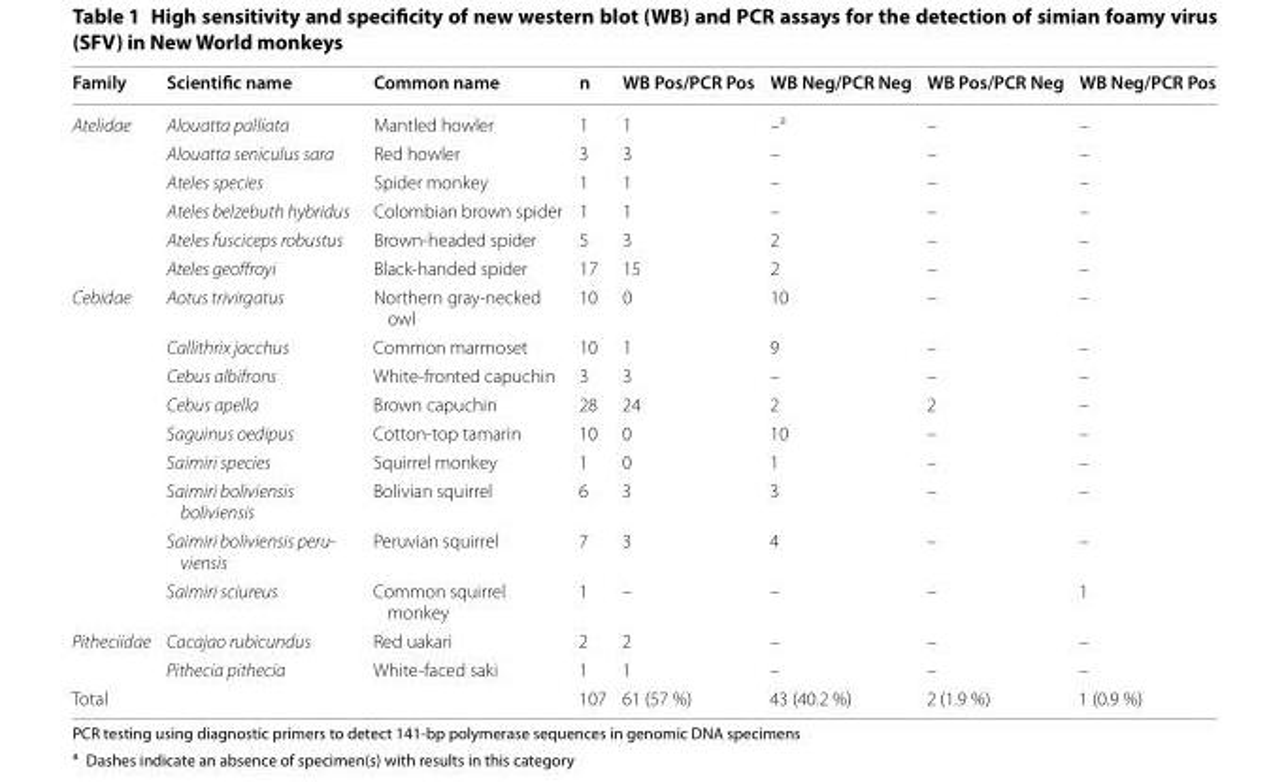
<table><thead><tr><td>Family</td><td>Scientific name</td><td>Common name</td><td>n</td><td>WB Pos/PCR Pos</td><td>WB Neg/PCR Neg</td><td>WB Pos/PCR Neg</td><td>WB Neg/PCR Pos</td></tr></thead><tbody><tr><td rowspan="6">Atelidae</td><td>Alouatta palliata</td><td>Mantled howler</td><td>1</td><td>1</td><td>–<sup>a</sup></td><td>–</td><td>–</td></tr><tr><td>Alouatta seniculus sara</td><td>Red howler</td><td>3</td><td>3</td><td>–</td><td>–</td><td>–</td></tr><tr><td>Ateles species</td><td>Spider monkey</td><td>1</td><td>1</td><td>–</td><td>–</td><td>–</td></tr><tr><td>Ateles belzebuth hybridus</td><td>Colombian brown spider</td><td>1</td><td>1</td><td>–</td><td>–</td><td>–</td></tr><tr><td>Ateles fusciceps robustus</td><td>Brown-headed spider</td><td>5</td><td>3</td><td>2</td><td>–</td><td>–</td></tr><tr><td>Ateles geoffroyi</td><td>Black-handed spider</td><td>17</td><td>15</td><td>2</td><td>–</td><td>–</td></tr><tr><td rowspan="9">Cebidae</td><td>Aotus trivirgatus</td><td>Northern gray-necked owl</td><td>10</td><td>0</td><td>10</td><td>–</td><td>–</td></tr><tr><td>Callithrix jacchus</td><td>Common marmoset</td><td>10</td><td>1</td><td>9</td><td>–</td><td>–</td></tr><tr><td>Cebus albifrons</td><td>White-fronted capuchin</td><td>3</td><td>3</td><td>–</td><td>–</td><td>–</td></tr><tr><td>Cebus apella</td><td>Brown capuchin</td><td>28</td><td>24</td><td>2</td><td>2</td><td>–</td></tr><tr><td>Saguinus oedipus</td><td>Cotton-top tamarin</td><td>10</td><td>0</td><td>10</td><td>–</td><td>–</td></tr><tr><td>Saimiri species</td><td>Squirrel monkey</td><td>1</td><td>0</td><td>1</td><td>–</td><td>–</td></tr><tr><td>Saimiri boliviensis boliviensis</td><td>Bolivian squirrel</td><td>6</td><td>3</td><td>3</td><td>–</td><td>–</td></tr><tr><td>Saimiri boliviensis peru- viensis</td><td>Peruvian squirrel</td><td>7</td><td>3</td><td>4</td><td>–</td><td>–</td></tr><tr><td>Saimiri sciureus</td><td>Common squirrel monkey</td><td>1</td><td>–</td><td>–</td><td>–</td><td>1</td></tr><tr><td rowspan="2">Pitheciidae</td><td>Cacajao rubicundus</td><td>Red uakari</td><td>2</td><td>2</td><td>–</td><td>–</td><td>–</td></tr><tr><td>Pithecia pithecia</td><td>White-faced saki</td><td>1</td><td>1</td><td>–</td><td>–</td><td>–</td></tr><tr><td>Total</td><td></td><td></td><td>107</td><td>61 (57 %)</td><td>43 (40.2 %)</td><td>2 (1.9 %)</td><td>1 (0.9 %)</td></tr></tbody></table>